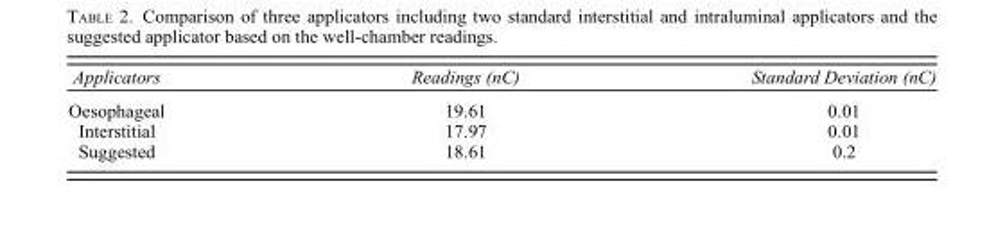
<table><thead><tr><td>Applicators</td><td>Readings (nC)</td><td>Standard Deviation (nC)</td></tr></thead><tbody><tr><td>Oesophageal</td><td>19.61</td><td>0.01</td></tr><tr><td>Interstitial</td><td>17.97</td><td>0.01</td></tr><tr><td>Suggested</td><td>18.61</td><td>0.2</td></tr></tbody></table>